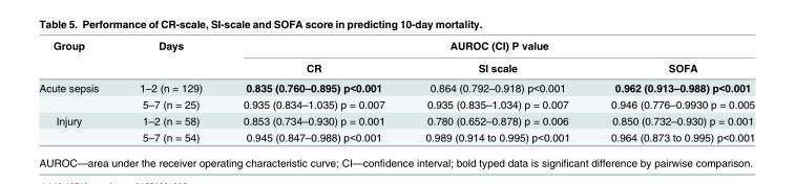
<table><thead><tr><td rowspan="2">Group</td><td rowspan="2">Days</td><td colspan="3">AUROC (CI) P value</td></tr><tr><td>CR</td><td>SI scale</td><td>SOFA</td></tr></thead><tbody><tr><td rowspan="2">Acute sepsis</td><td>1–2 (n = 129)</td><td>0.835 (0.760–0.895) p&lt;0.001</td><td>0.864 (0.792–0.918) p&lt;0.001</td><td>0.962 (0.913–0.988) p&lt;0.001</td></tr><tr><td>5–7 (n = 25)</td><td>0.935 (0.834–1.035) p = 0.007</td><td>0.935 (0.835–1.034) p = 0.007</td><td>0.946 (0.776–0.9930 p = 0.005</td></tr><tr><td rowspan="2">Injury</td><td>1–2 (n = 58)</td><td>0.853 (0.734–0.930) p = 0.001</td><td>0.780 (0.652–0.878) p = 0.006</td><td>0.850 (0.732–0.930) p = 0.001</td></tr><tr><td>5–7 (n = 54)</td><td>0.945 (0.847–0.988) p&lt;0.001</td><td>0.989 (0.914 to 0.995) p&lt;0.001</td><td>0.964 (0.873 to 0.995) p&lt;0.001</td></tr></tbody></table>